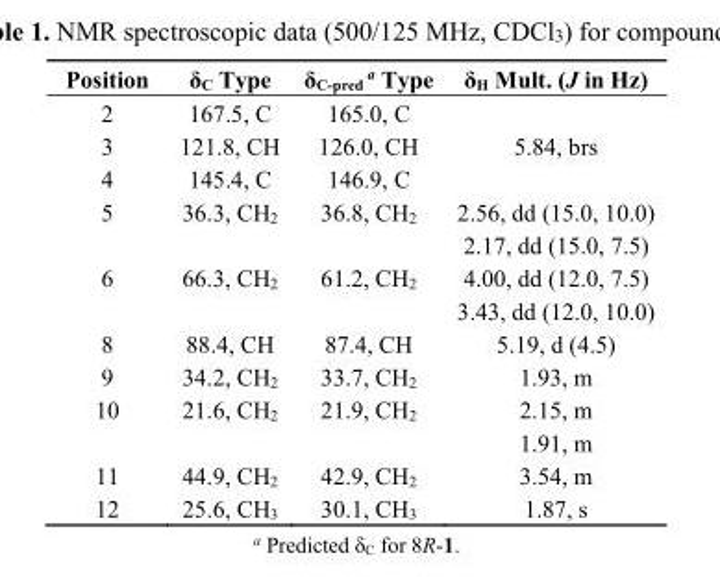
<table><thead><tr><td>Position</td><td>δ<sub>C</sub> Type</td><td>δ<sub>C-pred</sub> <sup>a</sup> Type</td><td>δ<sub>H</sub> Mult. (J in Hz)</td></tr></thead><tbody><tr><td>2</td><td>167.5, C</td><td>165.0, C</td><td></td></tr><tr><td>3</td><td>121.8, CH</td><td>126.0, CH</td><td>5.84, brs</td></tr><tr><td>4</td><td>145.4, C</td><td>146.9, C</td><td></td></tr><tr><td rowspan="2">5</td><td>36.3, CH<sub>2</sub></td><td>36.8, CH<sub>2</sub></td><td>2.56, dd (15.0, 10.0)</td></tr><tr><td></td><td></td><td>2.17, dd (15.0, 7.5)</td></tr><tr><td rowspan="2">6</td><td>66.3, CH<sub>2</sub></td><td>61.2, CH<sub>2</sub></td><td>4.00, dd (12.0, 7.5)</td></tr><tr><td></td><td></td><td>3.43, dd (12.0, 10.0)</td></tr><tr><td>8</td><td>88.4, CH</td><td>87.4, CH</td><td>5.19, d (4.5)</td></tr><tr><td>9</td><td>34.2, CH<sub>2</sub></td><td>33.7, CH<sub>2</sub></td><td>1.93, m</td></tr><tr><td rowspan="2">10</td><td>21.6, CH<sub>2</sub></td><td>21.9, CH<sub>2</sub></td><td>2.15, m</td></tr><tr><td></td><td></td><td>1.91, m</td></tr><tr><td>11</td><td>44.9, CH<sub>2</sub></td><td>42.9, CH<sub>2</sub></td><td>3.54, m</td></tr><tr><td>12</td><td>25.6, CH<sub>3</sub></td><td>30.1, CH<sub>3</sub></td><td>1.87, s</td></tr></tbody></table>